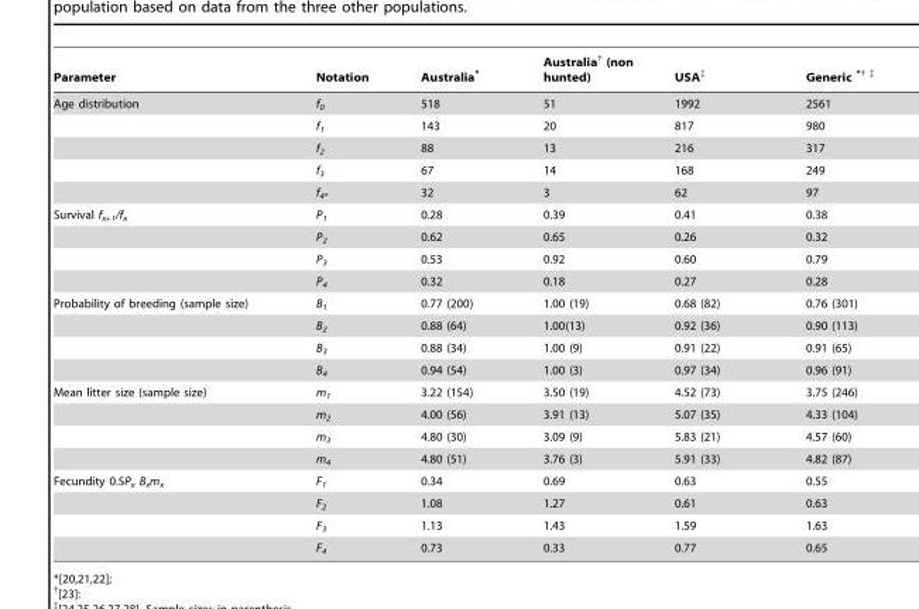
<table><thead><tr><td>Parameter</td><td>Notation</td><td>Australia*</td><td>Australia† (non hunted)</td><td>USA‡</td><td>Generic *{</td></tr></thead><tbody><tr><td rowspan="5">Age distribution</td><td>f<sub>0</sub></td><td>518</td><td>51</td><td>1992</td><td>2561</td></tr><tr><td>f<sub>1</sub></td><td>143</td><td>20</td><td>817</td><td>980</td></tr><tr><td>f<sub>2</sub></td><td>88</td><td>13</td><td>216</td><td>317</td></tr><tr><td>f<sub>3</sub></td><td>67</td><td>14</td><td>168</td><td>249</td></tr><tr><td>f<sub>4</sub>*</td><td>32</td><td>3</td><td>62</td><td>97</td></tr><tr><td rowspan="4">Survival f<sub>x+1</sub>/f<sub>x</sub></td><td>P<sub>1</sub></td><td>0.28</td><td>0.39</td><td>0.41</td><td>0.38</td></tr><tr><td>P<sub>2</sub></td><td>0.62</td><td>0.65</td><td>0.26</td><td>0.32</td></tr><tr><td>P<sub>3</sub></td><td>0.53</td><td>0.92</td><td>0.60</td><td>0.79</td></tr><tr><td>P<sub>4</sub></td><td>0.32</td><td>0.18</td><td>0.27</td><td>0.28</td></tr><tr><td rowspan="4">Probability of breeding (sample size)</td><td>B<sub>1</sub></td><td>0.77 (200)</td><td>1.00 (19)</td><td>0.68 (82)</td><td>0.76 (301)</td></tr><tr><td>B<sub>2</sub></td><td>0.88 (64)</td><td>1.00(13)</td><td>0.92 (36)</td><td>0.90 (113)</td></tr><tr><td>B<sub>3</sub></td><td>0.88 (34)</td><td>1.00 (9)</td><td>0.91 (22)</td><td>0.91 (65)</td></tr><tr><td>B<sub>4</sub></td><td>0.94 (54)</td><td>1.00 (3)</td><td>0.97 (34)</td><td>0.96 (91)</td></tr><tr><td rowspan="4">Mean litter size (sample size)</td><td>m<sub>1</sub></td><td>3.22 (154)</td><td>3.50 (19)</td><td>4.52 (73)</td><td>3.75 (246)</td></tr><tr><td>m<sub>2</sub></td><td>4.00 (56)</td><td>3.91 (13)</td><td>5.07 (35)</td><td>4.33 (104)</td></tr><tr><td>m<sub>3</sub></td><td>4.80 (30)</td><td>3.09 (9)</td><td>5.83 (21)</td><td>4.57 (60)</td></tr><tr><td>m<sub>4</sub></td><td>4.80 (51)</td><td>3.76 (3)</td><td>5.91 (33)</td><td>4.82 (87)</td></tr><tr><td rowspan="4">Fecundity 0.5P<sub>x</sub> B<sub>x</sub>m<sub>x</sub></td><td>F<sub>1</sub></td><td>0.34</td><td>0.69</td><td>0.63</td><td>0.55</td></tr><tr><td>F<sub>2</sub></td><td>1.08</td><td>1.27</td><td>0.61</td><td>0.63</td></tr><tr><td>F<sub>3</sub></td><td>1.13</td><td>1.43</td><td>1.59</td><td>1.63</td></tr><tr><td>F<sub>4</sub></td><td>0.73</td><td>0.33</td><td>0.77</td><td>0.65</td></tr></tbody></table>